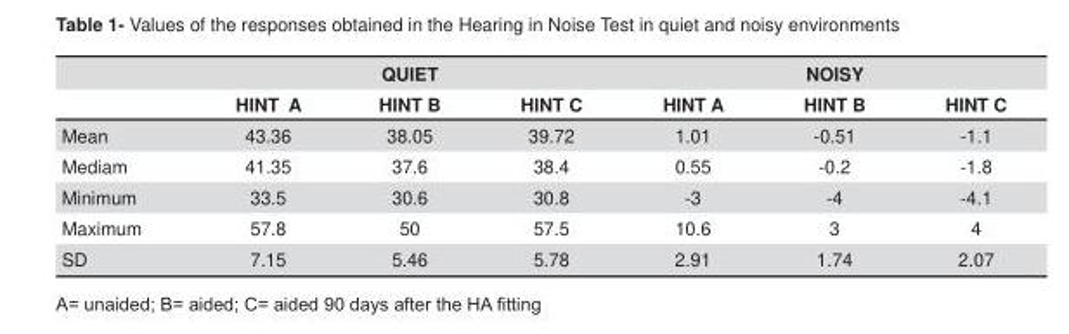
<table><thead><tr><td rowspan="2"></td><td colspan="3">QUIET</td><td colspan="3">NOISY</td></tr><tr><td>HINT A</td><td>HINT B</td><td>HINT C</td><td>HINT A</td><td>HINT B</td><td>HINT C</td></tr></thead><tbody><tr><td>Mean</td><td>43.36</td><td>38.05</td><td>39.72</td><td>1.01</td><td>-0.51</td><td>-1.1</td></tr><tr><td>Mediam</td><td>41.35</td><td>37.6</td><td>38.4</td><td>0.55</td><td>-0.2</td><td>-1.8</td></tr><tr><td>Minimum</td><td>33.5</td><td>30.6</td><td>30.8</td><td>-3</td><td>-4</td><td>-4.1</td></tr><tr><td>Maximum</td><td>57.8</td><td>50</td><td>57.5</td><td>10.6</td><td>3</td><td>4</td></tr><tr><td>SD</td><td>7.15</td><td>5.46</td><td>5.78</td><td>2.91</td><td>1.74</td><td>2.07</td></tr></tbody></table>